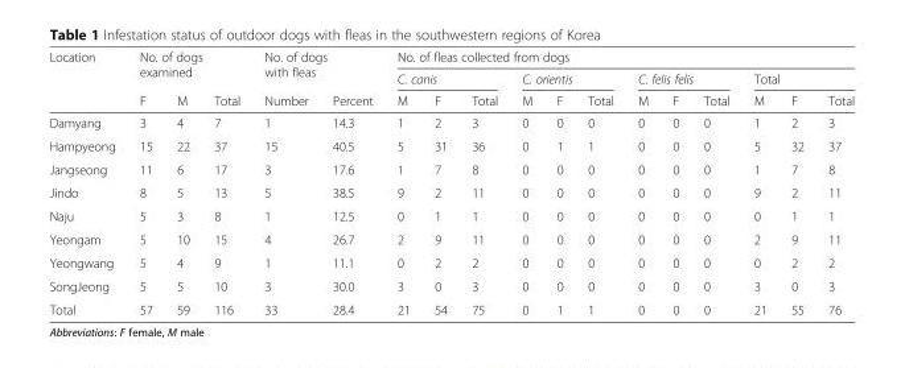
<table><thead><tr><td rowspan="3">Location</td><td rowspan="2" colspan="3">No. of dogs examined</td><td rowspan="2" colspan="2">No. of dogs with fleas</td><td colspan="12">No. of fleas collected from dogs</td></tr><tr><td colspan="3">C. canis</td><td colspan="3">C. orientis</td><td colspan="3">C. felis felis</td><td colspan="3">Total</td></tr><tr><td>F</td><td>M</td><td>Total</td><td>Number</td><td>Percent</td><td>M</td><td>F</td><td>Total</td><td>M</td><td>F</td><td>Total</td><td>M</td><td>F</td><td>Total</td><td>M</td><td>F</td><td>Total</td></tr></thead><tbody><tr><td>Damyang</td><td>3</td><td>4</td><td>7</td><td>1</td><td>14.3</td><td>1</td><td>2</td><td>3</td><td>0</td><td>0</td><td>0</td><td>0</td><td>0</td><td>0</td><td>1</td><td>2</td><td>3</td></tr><tr><td>Hampyeong</td><td>15</td><td>22</td><td>37</td><td>15</td><td>40.5</td><td>5</td><td>31</td><td>36</td><td>0</td><td>1</td><td>1</td><td>0</td><td>0</td><td>0</td><td>5</td><td>32</td><td>37</td></tr><tr><td>Jangseong</td><td>11</td><td>6</td><td>17</td><td>3</td><td>17.6</td><td>1</td><td>7</td><td>8</td><td>0</td><td>0</td><td>0</td><td>0</td><td>0</td><td>0</td><td>1</td><td>7</td><td>8</td></tr><tr><td>Jindo</td><td>8</td><td>5</td><td>13</td><td>5</td><td>38.5</td><td>9</td><td>2</td><td>11</td><td>0</td><td>0</td><td>0</td><td>0</td><td>0</td><td>0</td><td>9</td><td>2</td><td>11</td></tr><tr><td>Naju</td><td>5</td><td>3</td><td>8</td><td>1</td><td>12.5</td><td>0</td><td>1</td><td>1</td><td>0</td><td>0</td><td>0</td><td>0</td><td>0</td><td>0</td><td>0</td><td>1</td><td>1</td></tr><tr><td>Yeongam</td><td>5</td><td>10</td><td>15</td><td>4</td><td>26.7</td><td>2</td><td>9</td><td>11</td><td>0</td><td>0</td><td>0</td><td>0</td><td>0</td><td>0</td><td>2</td><td>9</td><td>11</td></tr><tr><td>Yeongwang</td><td>5</td><td>4</td><td>9</td><td>1</td><td>11.1</td><td>0</td><td>2</td><td>2</td><td>0</td><td>0</td><td>0</td><td>0</td><td>0</td><td>0</td><td>0</td><td>2</td><td>2</td></tr><tr><td>SongJeong</td><td>5</td><td>5</td><td>10</td><td>3</td><td>30.0</td><td>3</td><td>0</td><td>3</td><td>0</td><td>0</td><td>0</td><td>0</td><td>0</td><td>0</td><td>3</td><td>0</td><td>3</td></tr><tr><td>Total</td><td>57</td><td>59</td><td>116</td><td>33</td><td>28.4</td><td>21</td><td>54</td><td>75</td><td>0</td><td>1</td><td>1</td><td>0</td><td>0</td><td>0</td><td>21</td><td>55</td><td>76</td></tr></tbody></table>